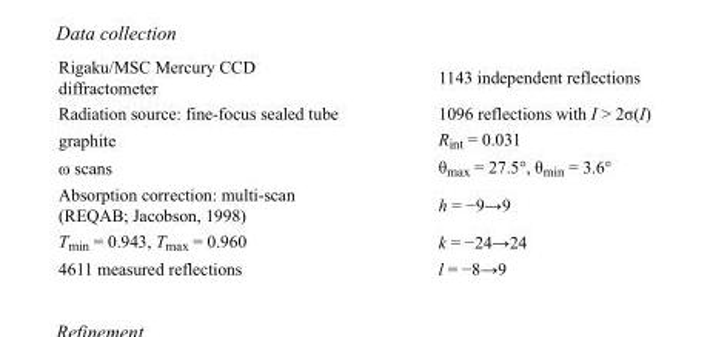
<table><tbody><tr><td>Rigaku/MSC Mercury CCD diffractometer</td><td>1143 independent reflections</td></tr><tr><td>Radiation source: fine-focus sealed tube</td><td>1096 reflections with I &gt; 2σ(I)</td></tr><tr><td>graphite</td><td>R<sub>int</sub> = 0.031</td></tr><tr><td>ω scans</td><td>θ<sub>max</sub> = 27.5°, θ<sub>min</sub> = 3.6°</td></tr><tr><td>Absorption correction: multi-scan (REQAB; Jacobson, 1998)</td><td>h = −9→9</td></tr><tr><td>T<sub>min</sub> = 0.943, T<sub>max</sub> = 0.960</td><td>k = −24→24</td></tr><tr><td>4611 measured reflections</td><td>l = −8→9</td></tr></tbody></table>